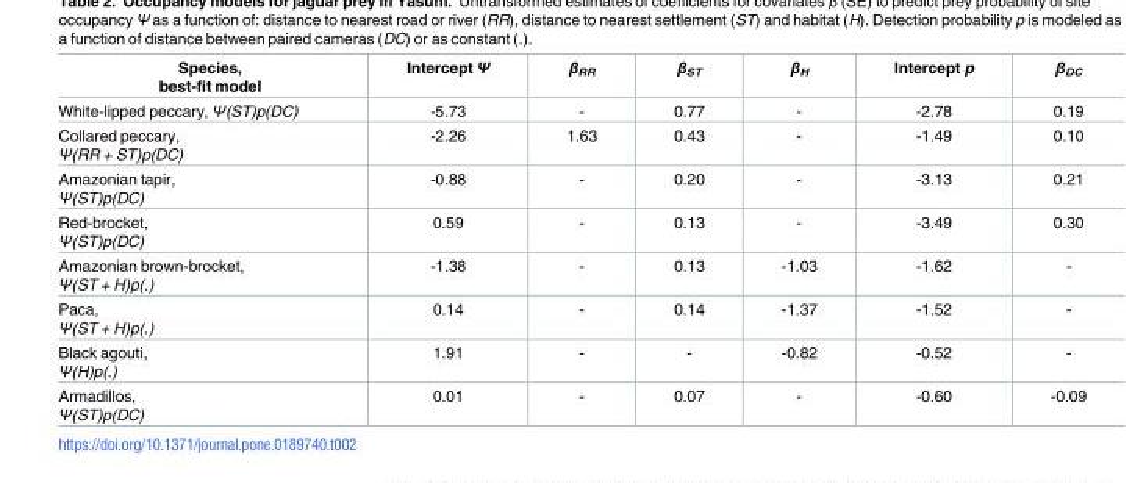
<table><thead><tr><td>Species, best-fit model</td><td>Intercept Ψ</td><td>β<sub>RR</sub></td><td>β<sub>ST</sub></td><td>β<sub>H</sub></td><td>Intercept p</td><td>β<sub>DC</sub></td></tr></thead><tbody><tr><td>White-lipped peccary, Ψ(ST)p(DC)</td><td>-5.73</td><td>-</td><td>0.77</td><td>-</td><td>-2.78</td><td>0.19</td></tr><tr><td>Collared peccary, Ψ(RR + ST)p(DC)</td><td>-2.26</td><td>1.63</td><td>0.43</td><td>-</td><td>-1.49</td><td>0.10</td></tr><tr><td>Amazonian tapir, Ψ(ST)p(DC)</td><td>-0.88</td><td>-</td><td>0.20</td><td>-</td><td>-3.13</td><td>0.21</td></tr><tr><td>Red-brocket, Ψ(ST)p(DC)</td><td>0.59</td><td>-</td><td>0.13</td><td>-</td><td>-3.49</td><td>0.30</td></tr><tr><td>Amazonian brown-brocket, Ψ(ST + H)p(.)</td><td>-1.38</td><td>-</td><td>0.13</td><td>-1.03</td><td>-1.62</td><td>-</td></tr><tr><td>Paca, Ψ(ST + H)p(.)</td><td>0.14</td><td>-</td><td>0.14</td><td>-1.37</td><td>-1.52</td><td>-</td></tr><tr><td>Black agouti, Ψ(H)p(.)</td><td>1.91</td><td>-</td><td>-</td><td>-0.82</td><td>-0.52</td><td>-</td></tr><tr><td>Armadillos, Ψ(ST)p(DC)</td><td>0.01</td><td>-</td><td>0.07</td><td>-</td><td>-0.60</td><td>-0.09</td></tr></tbody></table>